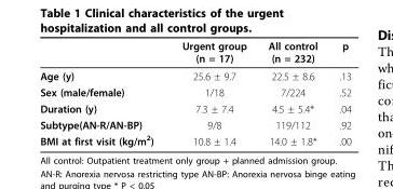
<table><thead><tr><td></td><td>Urgent group (n = 17)</td><td>All control (n = 232)</td><td>p</td></tr></thead><tbody><tr><td>Age (y)</td><td>25.6 ± 9.7</td><td>22.5 ± 8.6</td><td>.13</td></tr><tr><td>Sex (male/female)</td><td>1/18</td><td>7/224</td><td>.52</td></tr><tr><td>Duration (y)</td><td>7.3 ± 7.4</td><td>4.5 ± 5.4*</td><td>.04</td></tr><tr><td>Subtype(AN-R/AN-BP)</td><td>9/8</td><td>119/112</td><td>.92</td></tr><tr><td>BMI at first visit (kg/m<sup>2</sup>)</td><td>10.8 ± 1.4</td><td>14.0 ± 1.8*</td><td>.00</td></tr></tbody></table>